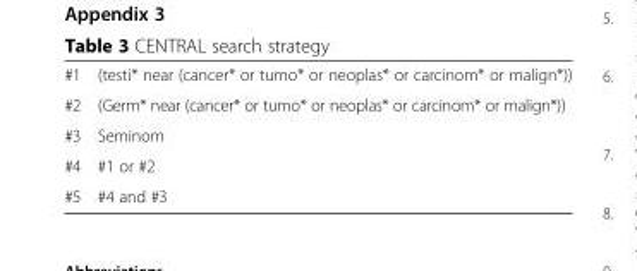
<table><tbody><tr><td>#1</td><td>(testi* near (cancer* or tumo* or neoplas* or carcinom* or malign*))</td></tr><tr><td>#2</td><td>(Germ* near (cancer* or tumo* or neoplas* or carcinom* or malign*))</td></tr><tr><td>#3</td><td>Seminom</td></tr><tr><td>#4</td><td>#1 or #2</td></tr><tr><td>#5</td><td>#4 and #3</td></tr></tbody></table>